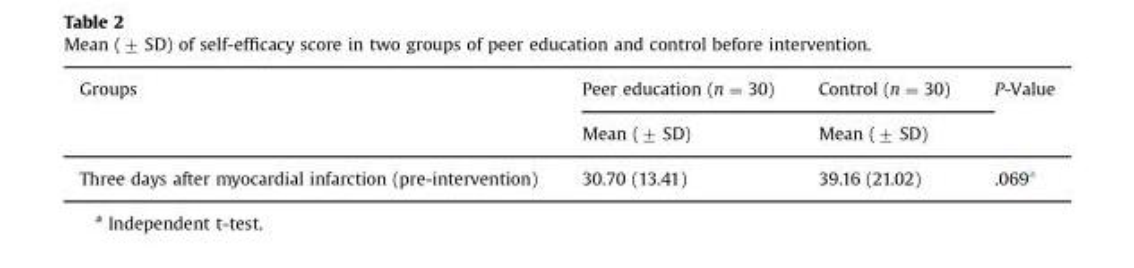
<table><thead><tr><td rowspan="2">Groups</td><td rowspan="2">Peer education (n = 30) Mean (± SD)</td><td rowspan="2">Control (n = 30) Mean (± SD)</td><td rowspan="2">P-Value</td></tr><tr></tr></thead><tbody><tr><td>Three days after myocardial infarction (pre-intervention)</td><td>30.70 (13.41)</td><td>39.16 (21.02)</td><td>.069<sup>a</sup></td></tr></tbody></table>